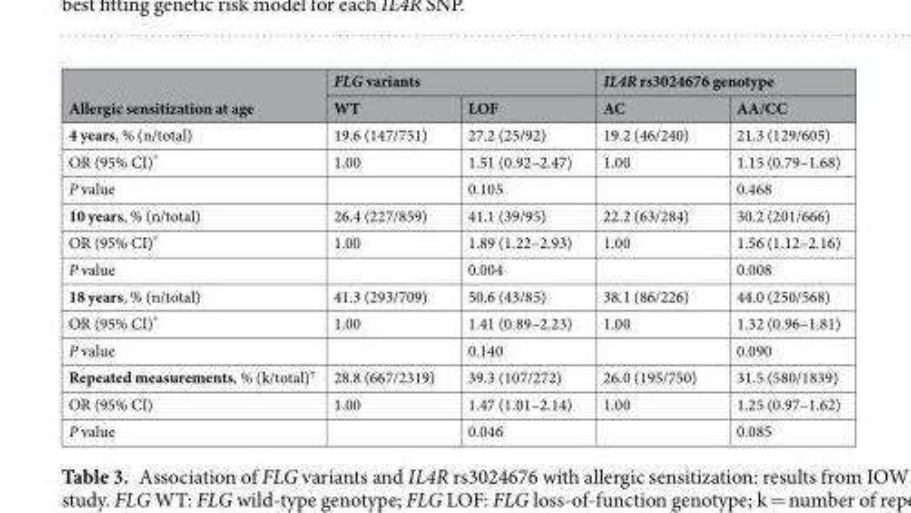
<table><thead><tr><td rowspan="2">Allergic sensitization at age</td><td colspan="2">FLG variants</td><td colspan="2">IL4R rs3024676 genotype</td></tr><tr><td>WT</td><td>LOF</td><td>AC</td><td>AA/CC</td></tr></thead><tbody><tr><td>4 years, % (n/total)</td><td>19.6 (147/751)</td><td>27.2 (25/92)</td><td>19.2 (46/240)</td><td>21.3 (129/605)</td></tr><tr><td>OR (95% CI)*</td><td>1.00</td><td>1.51 (0.92–2.47)</td><td>1.00</td><td>1.15 (0.79–1.68)</td></tr><tr><td>P value</td><td></td><td>0.105</td><td></td><td>0.468</td></tr><tr><td>10 years, % (n/total)</td><td>26.4 (227/859)</td><td>41.1 (39/95)</td><td>22.2 (63/284)</td><td>30.2 (201/666)</td></tr><tr><td>OR (95% CI)*</td><td>1.00</td><td>1.89 (1.22–2.93)</td><td>1.00</td><td>1.56 (1.12–2.16)</td></tr><tr><td>P value</td><td></td><td>0.004</td><td></td><td>0.008</td></tr><tr><td>18 years, % (n/total)</td><td>41.3 (293/709)</td><td>50.6 (43/85)</td><td>38.1 (86/226)</td><td>44.0 (250/568)</td></tr><tr><td>OR (95% CI)*</td><td>1.00</td><td>1.41 (0.89–2.23)</td><td>1.00</td><td>1.32 (0.96–1.81)</td></tr><tr><td>P value</td><td></td><td>0.140</td><td></td><td>0.090</td></tr><tr><td>Repeated measurements, % (k/total)<sup>†</sup></td><td>28.8 (667/2319)</td><td>39.3 (107/272)</td><td>26.0 (195/750)</td><td>31.5 (580/1839)</td></tr><tr><td>OR (95% CI)</td><td>1.00</td><td>1.47 (1.01–2.14)</td><td>1.00</td><td>1.25 (0.97–1.62)</td></tr><tr><td>P value</td><td></td><td>0.046</td><td></td><td>0.085</td></tr></tbody></table>